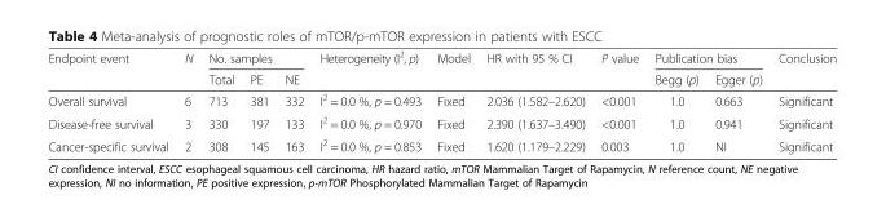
<table><thead><tr><td rowspan="2">Endpoint event</td><td rowspan="2">N</td><td colspan="3">No. samples</td><td rowspan="2">Heterogeneity (I<sup>2</sup>, p)</td><td rowspan="2">Model</td><td rowspan="2">HR with 95 % CI</td><td rowspan="2">P value</td><td colspan="2">Publication bias</td><td rowspan="2">Conclusion</td></tr><tr><td>Total</td><td>PE</td><td>NE</td><td>Begg (p)</td><td>Egger (p)</td></tr></thead><tbody><tr><td>Overall survival</td><td>6</td><td>713</td><td>381</td><td>332</td><td>I<sup>2</sup> = 0.0 %, p = 0.493</td><td>Fixed</td><td>2.036 (1.582–2.620)</td><td>&lt;0.001</td><td>1.0</td><td>0.663</td><td>Significant</td></tr><tr><td>Disease-free survival</td><td>3</td><td>330</td><td>197</td><td>133</td><td>I<sup>2</sup> = 0.0 %, p = 0.970</td><td>Fixed</td><td>2.390 (1.637–3.490)</td><td>&lt;0.001</td><td>1.0</td><td>0.941</td><td>Significant</td></tr><tr><td>Cancer-specific survival</td><td>2</td><td>308</td><td>145</td><td>163</td><td>I<sup>2</sup> = 0.0 %, p = 0.853</td><td>Fixed</td><td>1.620 (1.179–2.229)</td><td>0.003</td><td>1.0</td><td>NI</td><td>Significant</td></tr></tbody></table>